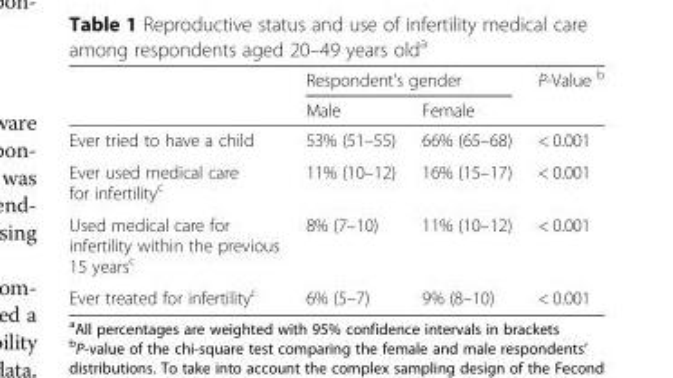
<table><thead><tr><td rowspan="2"></td><td colspan="2">Respondent’s gender</td><td rowspan="2">P-Value <sup>b</sup></td></tr><tr><td>Male</td><td>Female</td></tr></thead><tbody><tr><td>Ever tried to have a child</td><td>53% (51–55)</td><td>66% (65–68)</td><td>&lt; 0.001</td></tr><tr><td>Ever used medical care for infertility<sup>c</sup></td><td>11% (10–12)</td><td>16% (15–17)</td><td>&lt; 0.001</td></tr><tr><td>Used medical care for infertility within the previous 15 years<sup>c</sup></td><td>8% (7–10)</td><td>11% (10–12)</td><td>&lt; 0.001</td></tr><tr><td>Ever treated for infertility<sup>c</sup></td><td>6% (5–7)</td><td>9% (8–10)</td><td>&lt; 0.001</td></tr></tbody></table>